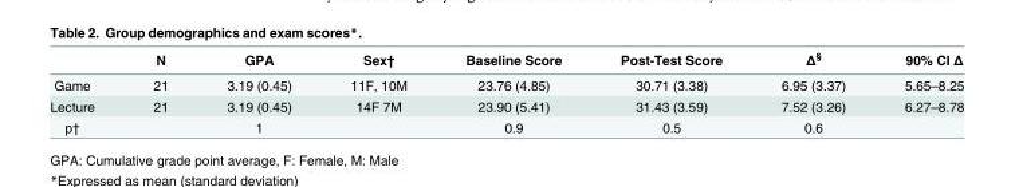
<table><thead><tr><td></td><td>N</td><td>GPA</td><td>Sex†</td><td>Baseline Score</td><td>Post-Test Score</td><td>Δ<sup>§</sup></td><td>90% CI Δ</td></tr></thead><tbody><tr><td>Game</td><td>21</td><td>3.19 (0.45)</td><td>11F, 10M</td><td>23.76 (4.85)</td><td>30.71 (3.38)</td><td>6.95 (3.37)</td><td>5.65–8.25</td></tr><tr><td>Lecture</td><td>21</td><td>3.19 (0.45)</td><td>14F 7M</td><td>23.90 (5.41)</td><td>31.43 (3.59)</td><td>7.52 (3.26)</td><td>6.27–8.78</td></tr><tr><td>p†</td><td></td><td>1</td><td></td><td>0.9</td><td>0.5</td><td>0.6</td><td></td></tr></tbody></table>